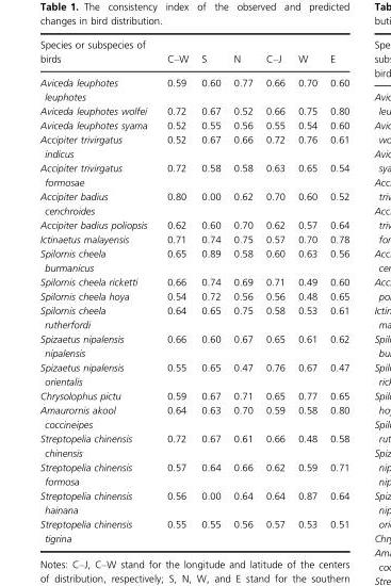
<table><thead><tr><td>Species or subspecies of birds</td><td>C–W</td><td>S</td><td>N</td><td>C–J</td><td>W</td><td>E</td></tr></thead><tbody><tr><td>Aviceda leuphotes leuphotes</td><td>0.59</td><td>0.60</td><td>0.77</td><td>0.66</td><td>0.70</td><td>0.60</td></tr><tr><td>Aviceda leuphotes wolfei</td><td>0.72</td><td>0.67</td><td>0.52</td><td>0.66</td><td>0.75</td><td>0.80</td></tr><tr><td>Aviceda leuphotes syama</td><td>0.52</td><td>0.55</td><td>0.56</td><td>0.55</td><td>0.54</td><td>0.60</td></tr><tr><td>Accipiter trivirgatus indicus</td><td>0.52</td><td>0.67</td><td>0.66</td><td>0.72</td><td>0.76</td><td>0.61</td></tr><tr><td>Accipiter trivirgatus formosae</td><td>0.72</td><td>0.58</td><td>0.58</td><td>0.63</td><td>0.65</td><td>0.54</td></tr><tr><td>Accipiter badius cenchroides</td><td>0.80</td><td>0.00</td><td>0.62</td><td>0.70</td><td>0.60</td><td>0.52</td></tr><tr><td>Accipiter badius poliopsis</td><td>0.62</td><td>0.60</td><td>0.70</td><td>0.62</td><td>0.57</td><td>0.64</td></tr><tr><td>Ictinaetus malayensis</td><td>0.71</td><td>0.74</td><td>0.75</td><td>0.57</td><td>0.70</td><td>0.78</td></tr><tr><td>Spilornis cheela burmanicus</td><td>0.65</td><td>0.89</td><td>0.58</td><td>0.60</td><td>0.63</td><td>0.56</td></tr><tr><td>Spilornis cheela ricketti</td><td>0.66</td><td>0.74</td><td>0.69</td><td>0.71</td><td>0.49</td><td>0.60</td></tr><tr><td>Spilornis cheela hoya</td><td>0.54</td><td>0.72</td><td>0.56</td><td>0.56</td><td>0.48</td><td>0.65</td></tr><tr><td>Spilornis cheela rutherfordi</td><td>0.64</td><td>0.65</td><td>0.75</td><td>0.58</td><td>0.53</td><td>0.61</td></tr><tr><td>Spizaetus nipalensis nipalensis</td><td>0.66</td><td>0.60</td><td>0.67</td><td>0.65</td><td>0.61</td><td>0.62</td></tr><tr><td>Spizaetus nipalensis orientalis</td><td>0.55</td><td>0.65</td><td>0.47</td><td>0.76</td><td>0.67</td><td>0.47</td></tr><tr><td>Chrysolophus pictu</td><td>0.59</td><td>0.67</td><td>0.71</td><td>0.65</td><td>0.77</td><td>0.65</td></tr><tr><td>Amaurornis akool coccineipes</td><td>0.64</td><td>0.63</td><td>0.70</td><td>0.59</td><td>0.58</td><td>0.80</td></tr><tr><td>Streptopelia chinensis chinensis</td><td>0.72</td><td>0.67</td><td>0.61</td><td>0.66</td><td>0.48</td><td>0.58</td></tr><tr><td>Streptopelia chinensis formosa</td><td>0.57</td><td>0.64</td><td>0.66</td><td>0.62</td><td>0.59</td><td>0.71</td></tr><tr><td>Streptopelia chinensis hainana</td><td>0.56</td><td>0.00</td><td>0.64</td><td>0.64</td><td>0.87</td><td>0.64</td></tr><tr><td>Streptopelia chinensis tigrina</td><td>0.55</td><td>0.55</td><td>0.56</td><td>0.57</td><td>0.53</td><td>0.51</td></tr></tbody></table>